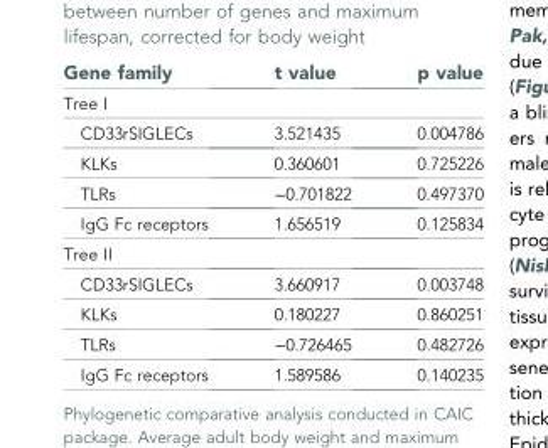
<table><thead><tr><td>Gene family</td><td>t value</td><td>p value</td></tr></thead><tbody><tr><td colspan="3">Tree I</td></tr><tr><td>CD33rSIGLECs</td><td>3.521435</td><td>0.004786</td></tr><tr><td>KLKs</td><td>0.360601</td><td>0.725226</td></tr><tr><td>TLRs</td><td>−0.701822</td><td>0.497370</td></tr><tr><td>IgG Fc receptors</td><td>1.656519</td><td>0.125834</td></tr><tr><td colspan="3">Tree II</td></tr><tr><td>CD33rSIGLECs</td><td>3.660917</td><td>0.003748</td></tr><tr><td>KLKs</td><td>0.180227</td><td>0.860251</td></tr><tr><td>TLRs</td><td>−0.726465</td><td>0.482726</td></tr><tr><td>IgG Fc receptors</td><td>1.589586</td><td>0.140235</td></tr></tbody></table>